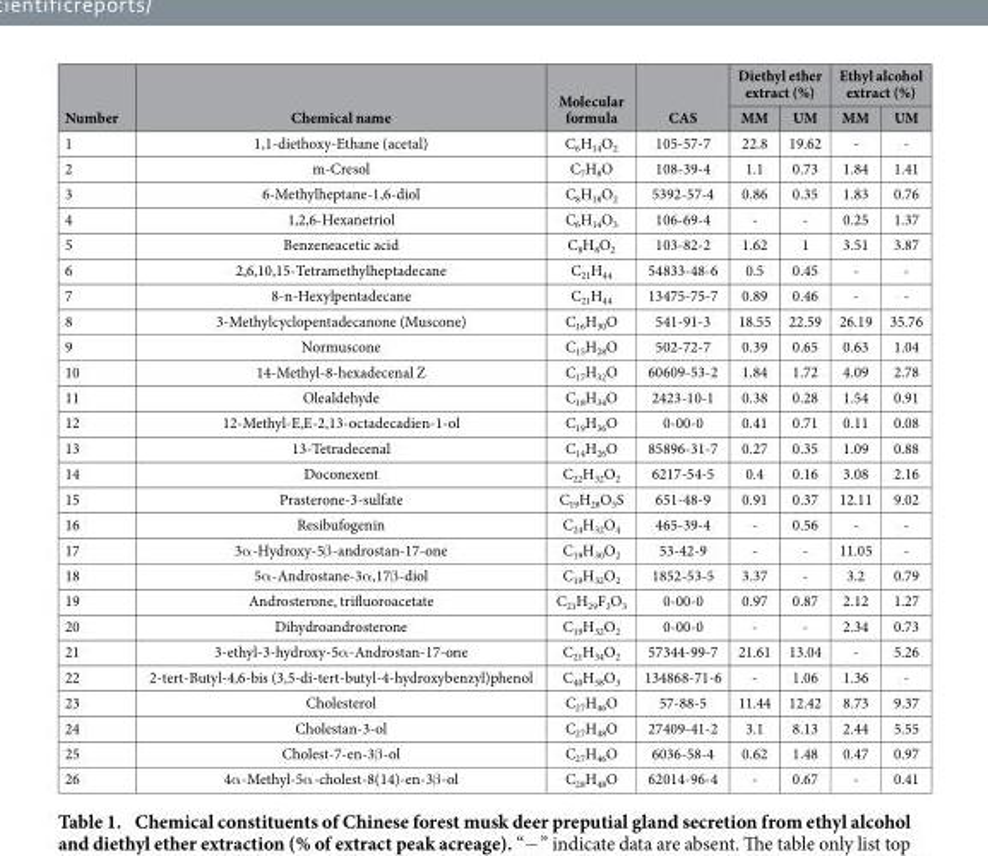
<table><thead><tr><td rowspan="2">Number</td><td rowspan="2">Chemical name</td><td rowspan="2">Molecular formula</td><td rowspan="2">CAS</td><td colspan="2">Diethyl ether extract (%)</td><td colspan="2">Ethyl alcohol extract (%)</td></tr><tr><td>MM</td><td>UM</td><td>MM</td><td>UM</td></tr></thead><tbody><tr><td>1</td><td>1,1-diethoxy-Ethane (acetal)</td><td>C<sub>6</sub>H<sub>14</sub>O<sub>2</sub></td><td>105-57-7</td><td>22.8</td><td>19.62</td><td>-</td><td>-</td></tr><tr><td>2</td><td>m-Cresol</td><td>C<sub>7</sub>H<sub>8</sub>O</td><td>108-39-4</td><td>1.1</td><td>0.73</td><td>1.84</td><td>1.41</td></tr><tr><td>3</td><td>6-Methylheptane-1,6-diol</td><td>C<sub>8</sub>H<sub>18</sub>O<sub>2</sub></td><td>5392-57-4</td><td>0.86</td><td>0.35</td><td>1.83</td><td>0.76</td></tr><tr><td>4</td><td>1,2,6-Hexanetriol</td><td>C<sub>6</sub>H<sub>14</sub>O<sub>3</sub></td><td>106-69-4</td><td>-</td><td>-</td><td>0.25</td><td>1.37</td></tr><tr><td>5</td><td>Benzeneacetic acid</td><td>C<sub>8</sub>H<sub>8</sub>O<sub>2</sub></td><td>103-82-2</td><td>1.62</td><td>1</td><td>3.51</td><td>3.87</td></tr><tr><td>6</td><td>2,6,10,15-Tetramethylheptadecane</td><td>C<sub>21</sub>H<sub>44</sub></td><td>54833-48-6</td><td>0.5</td><td>0.45</td><td>-</td><td>-</td></tr><tr><td>7</td><td>8-n-Hexylpentadecane</td><td>C<sub>21</sub>H<sub>44</sub></td><td>13475-75-7</td><td>0.89</td><td>0.46</td><td>-</td><td>-</td></tr><tr><td>8</td><td>3-Methylcyclopentadecanone (Muscone)</td><td>C<sub>16</sub>H<sub>30</sub>O</td><td>541-91-3</td><td>18.55</td><td>22.59</td><td>26.19</td><td>35.76</td></tr><tr><td>9</td><td>Normuscone</td><td>C<sub>15</sub>H<sub>28</sub>O</td><td>502-72-7</td><td>0.39</td><td>0.65</td><td>0.63</td><td>1.04</td></tr><tr><td>10</td><td>14-Methyl-8-hexadecenal Z</td><td>C<sub>17</sub>H<sub>32</sub>O</td><td>60609-53-2</td><td>1.84</td><td>1.72</td><td>4.09</td><td>2.78</td></tr><tr><td>11</td><td>Olealdehyde</td><td>C<sub>18</sub>H<sub>34</sub>O</td><td>2423-10-1</td><td>0.38</td><td>0.28</td><td>1.54</td><td>0.91</td></tr><tr><td>12</td><td>12-Methyl-E,E-2,13-octadecadien-1-ol</td><td>C<sub>19</sub>H<sub>36</sub>O</td><td>0-00-0</td><td>0.41</td><td>0.71</td><td>0.11</td><td>0.08</td></tr><tr><td>13</td><td>13-Tetradecenal</td><td>C<sub>14</sub>H<sub>26</sub>O</td><td>85896-31-7</td><td>0.27</td><td>0.35</td><td>1.09</td><td>0.88</td></tr><tr><td>14</td><td>Doconexent</td><td>C<sub>22</sub>H<sub>32</sub>O<sub>2</sub></td><td>6217-54-5</td><td>0.4</td><td>0.16</td><td>3.08</td><td>2.16</td></tr><tr><td>15</td><td>Prasterone-3-sulfate</td><td>C<sub>19</sub>H<sub>28</sub>O<sub>5</sub>S</td><td>651-48-9</td><td>0.91</td><td>0.37</td><td>12.11</td><td>9.02</td></tr><tr><td>16</td><td>Resibufogenin</td><td>C<sub>24</sub>H<sub>32</sub>O<sub>4</sub></td><td>465-39-4</td><td>-</td><td>0.56</td><td>-</td><td>-</td></tr><tr><td>17</td><td>3α -Hydroxy-5β -androstan-17-one</td><td>C<sub>19</sub>H<sub>30</sub>O<sub>2</sub></td><td>53-42-9</td><td>-</td><td>-</td><td>11.05</td><td>-</td></tr><tr><td>18</td><td>5α -Androstane-3α ,17β -diol</td><td>C<sub>19</sub>H<sub>32</sub>O<sub>2</sub></td><td>1852-53-5</td><td>3.37</td><td>-</td><td>3.2</td><td>0.79</td></tr><tr><td>19</td><td>Androsterone, trifluoroacetate</td><td>C<sub>21</sub>H<sub>29</sub>F<sub>3</sub>O<sub>3</sub></td><td>0-00-0</td><td>0.97</td><td>0.87</td><td>2.12</td><td>1.27</td></tr><tr><td>20</td><td>Dihydroandrosterone</td><td>C<sub>19</sub>H<sub>32</sub>O<sub>2</sub></td><td>0-00-0</td><td>-</td><td>-</td><td>2.34</td><td>0.73</td></tr><tr><td>21</td><td>3-ethyl-3-hydroxy-5α -Androstan-17-one</td><td>C<sub>21</sub>H<sub>34</sub>O<sub>2</sub></td><td>57344-99-7</td><td>21.61</td><td>13.04</td><td>-</td><td>5.26</td></tr><tr><td>22</td><td>2-tert-Butyl-4,6-bis (3,5-di-tert-butyl-4-hydroxybenzyl)phenol</td><td>C<sub>40</sub>H<sub>58</sub>O<sub>3</sub></td><td>134868-71-6</td><td>-</td><td>1.06</td><td>1.36</td><td>-</td></tr><tr><td>23</td><td>Cholesterol</td><td>C<sub>27</sub>H<sub>46</sub>O</td><td>57-88-5</td><td>11.44</td><td>12.42</td><td>8.73</td><td>9.37</td></tr><tr><td>24</td><td>Cholestan-3-ol</td><td>C<sub>27</sub>H<sub>48</sub>O</td><td>27409-41-2</td><td>3.1</td><td>8.13</td><td>2.44</td><td>5.55</td></tr><tr><td>25</td><td>Cholest-7-en-3β -ol</td><td>C<sub>27</sub>H<sub>46</sub>O</td><td>6036-58-4</td><td>0.62</td><td>1.48</td><td>0.47</td><td>0.97</td></tr><tr><td>26</td><td>4α -Methyl-5α -cholest-8(14)-en-3β -ol</td><td>C<sub>28</sub>H<sub>48</sub>O</td><td>62014-96-4</td><td>-</td><td>0.67</td><td>-</td><td>0.41</td></tr></tbody></table>